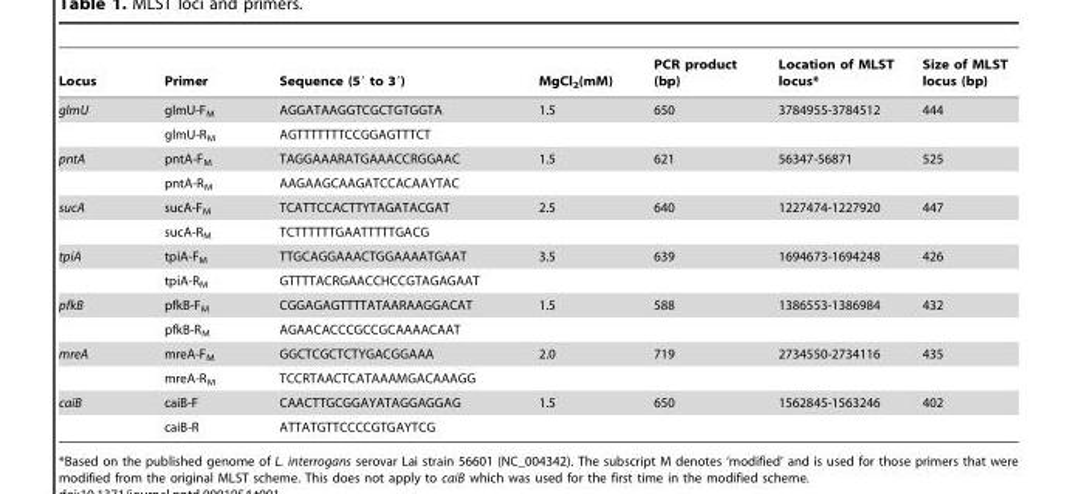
<table><thead><tr><td>Locus</td><td>Primer</td><td>Sequence (5′ to 3′)</td><td>MgCl<sub>2</sub>(mM)</td><td>PCR product (bp)</td><td>Location of MLST locus*</td><td>Size of MLST locus (bp)</td></tr></thead><tbody><tr><td rowspan="2">glmU</td><td>glmU-F<sub>M</sub></td><td>AGGATAAGGTCGCTGTGGTA</td><td>1.5</td><td>650</td><td>3784955-3784512</td><td>444</td></tr><tr><td>glmU-R<sub>M</sub></td><td>AGTTTTTTTCCGGAGTTTCT</td><td></td><td></td><td></td><td></td></tr><tr><td rowspan="2">pntA</td><td>pntA-F<sub>M</sub></td><td>TAGGAAARATGAAACCRGGAAC</td><td>1.5</td><td>621</td><td>56347-56871</td><td>525</td></tr><tr><td>pntA-R<sub>M</sub></td><td>AAGAAGCAAGATCCACAAYTAC</td><td></td><td></td><td></td><td></td></tr><tr><td rowspan="2">sucA</td><td>sucA-F<sub>M</sub></td><td>TCATTCCACTTYTAGATACGAT</td><td>2.5</td><td>640</td><td>1227474-1227920</td><td>447</td></tr><tr><td>sucA-R<sub>M</sub></td><td>TCTTTTTTGAATTTTTGACG</td><td></td><td></td><td></td><td></td></tr><tr><td rowspan="2">tpiA</td><td>tpiA-F<sub>M</sub></td><td>TTGCAGGAAACTGGAAAATGAAT</td><td>3.5</td><td>639</td><td>1694673-1694248</td><td>426</td></tr><tr><td>tpiA-R<sub>M</sub></td><td>GTTTTACRGAACCHCCGTAGAGAAT</td><td></td><td></td><td></td><td></td></tr><tr><td rowspan="2">pfkB</td><td>pfkB-F<sub>M</sub></td><td>CGGAGAGTTTTATAARAAGGACAT</td><td>1.5</td><td>588</td><td>1386553-1386984</td><td>432</td></tr><tr><td>pfkB-R<sub>M</sub></td><td>AGAACACCCGCCGCAAAACAAT</td><td></td><td></td><td></td><td></td></tr><tr><td rowspan="2">mreA</td><td>mreA-F<sub>M</sub></td><td>GGCTCGCTCTYGACGGAAA</td><td>2.0</td><td>719</td><td>2734550-2734116</td><td>435</td></tr><tr><td>mreA-R<sub>M</sub></td><td>TCCRTAACTCATAAAMGACAAAGG</td><td></td><td></td><td></td><td></td></tr><tr><td rowspan="2">caiB</td><td>caiB-F</td><td>CAACTTGCGGAYATAGGAGGAG</td><td>1.5</td><td>650</td><td>1562845-1563246</td><td>402</td></tr><tr><td>caiB-R</td><td>ATTATGTTCCCCGTGAYTCG</td><td></td><td></td><td></td><td></td></tr></tbody></table>